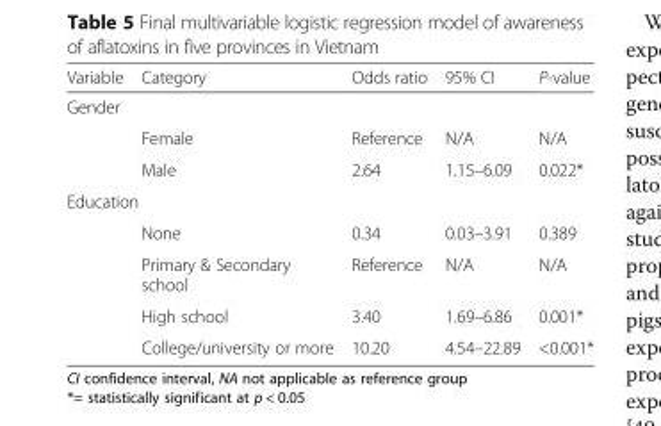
<table><thead><tr><td>Variable</td><td>Category</td><td>Odds ratio</td><td>95% CI</td><td>P-value</td></tr></thead><tbody><tr><td colspan="5">Gender</td></tr><tr><td></td><td>Female</td><td>Reference</td><td>N/A</td><td>N/A</td></tr><tr><td></td><td>Male</td><td>2.64</td><td>1.15–6.09</td><td>0.022*</td></tr><tr><td colspan="5">Education</td></tr><tr><td></td><td>None</td><td>0.34</td><td>0.03–3.91</td><td>0.389</td></tr><tr><td></td><td>Primary &amp; Secondary school</td><td>Reference</td><td>N/A</td><td>N/A</td></tr><tr><td></td><td>High school</td><td>3.40</td><td>1.69–6.86</td><td>0.001*</td></tr><tr><td></td><td>College/university or more</td><td>10.20</td><td>4.54–22.89</td><td>&lt;0.001*</td></tr></tbody></table>